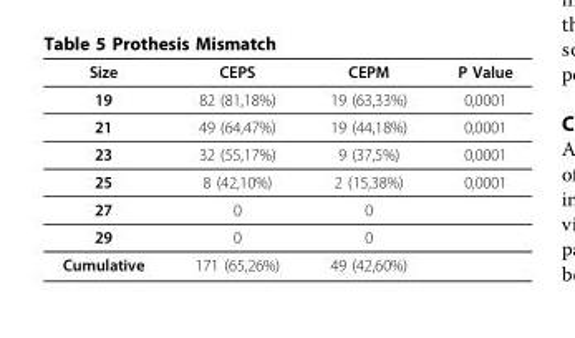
<table><thead><tr><td>Size</td><td>CEPS</td><td>CEPM</td><td>P Value</td></tr></thead><tbody><tr><td>19</td><td>82 (81,18%)</td><td>19 (63,33%)</td><td>0,0001</td></tr><tr><td>21</td><td>49 (64,47%)</td><td>19 (44,18%)</td><td>0,0001</td></tr><tr><td>23</td><td>32 (55,17%)</td><td>9 (37,5%)</td><td>0,0001</td></tr><tr><td>25</td><td>8 (42,10%)</td><td>2 (15,38%)</td><td>0,0001</td></tr><tr><td>27</td><td>0</td><td>0</td><td></td></tr><tr><td>29</td><td>0</td><td>0</td><td></td></tr><tr><td>Cumulative</td><td>171 (65,26%)</td><td>49 (42,60%)</td><td></td></tr></tbody></table>